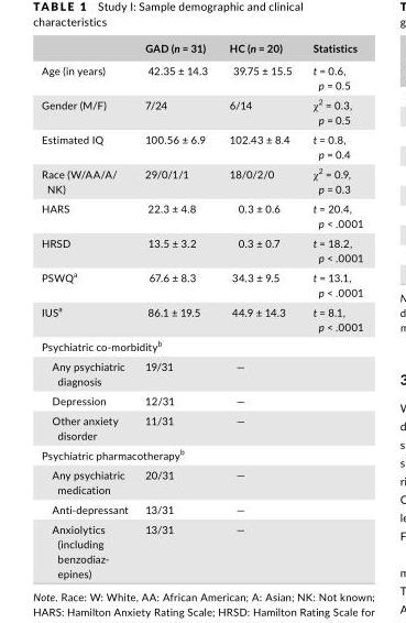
<table><thead><tr><td></td><td>GAD (n = 31)</td><td>HC (n = 20)</td><td>Statistics</td></tr></thead><tbody><tr><td>Age (in years)</td><td>42.35 ± 14.3</td><td>39.75 ± 15.5</td><td>t = 0.6, p = 0.5</td></tr><tr><td>Gender (M/F)</td><td>7/24</td><td>6/14</td><td>χ<sup>2</sup> = 0.3, p = 0.5</td></tr><tr><td>Estimated IQ</td><td>100.56 ± 6.9</td><td>102.43 ± 8.4</td><td>t = 0.8, p = 0.4</td></tr><tr><td>Race (W/AA/A/ NK)</td><td>29/0/1/1</td><td>18/0/2/0</td><td>χ<sup>2</sup> = 0.9, p = 0.3</td></tr><tr><td>HARS</td><td>22.3 ± 4.8</td><td>0.3 ± 0.6</td><td>t = 20.4, p &lt; .0001</td></tr><tr><td>HRSD</td><td>13.5 ± 3.2</td><td>0.3 ± 0.7</td><td>t = 18.2, p &lt; .0001</td></tr><tr><td>PSWQ<sup>a</sup></td><td>67.6 ± 8.3</td><td>34.3 ± 9.5</td><td>t = 13.1, p &lt; .0001</td></tr><tr><td>IUS<sup>a</sup></td><td>86.1 ± 19.5</td><td>44.9 ± 14.3</td><td>t = 8.1, p &lt; .0001</td></tr><tr><td colspan="4">Psychiatric co- morbidity<sup>b</sup></td></tr><tr><td>Any psychiatric diagnosis</td><td>19/31</td><td>—</td><td></td></tr><tr><td>Depression</td><td>12/31</td><td>—</td><td></td></tr><tr><td>Other anxiety disorder</td><td>11/31</td><td>—</td><td></td></tr><tr><td colspan="4">Psychiatric pharmacotherapy<sup>b</sup></td></tr><tr><td>Any psychiatric medication</td><td>20/31</td><td>—</td><td></td></tr><tr><td>Anti- depressant</td><td>13/31</td><td>—</td><td></td></tr><tr><td>Anxiolytics (including benzodiaz- epines)</td><td>13/31</td><td>—</td><td></td></tr></tbody></table>